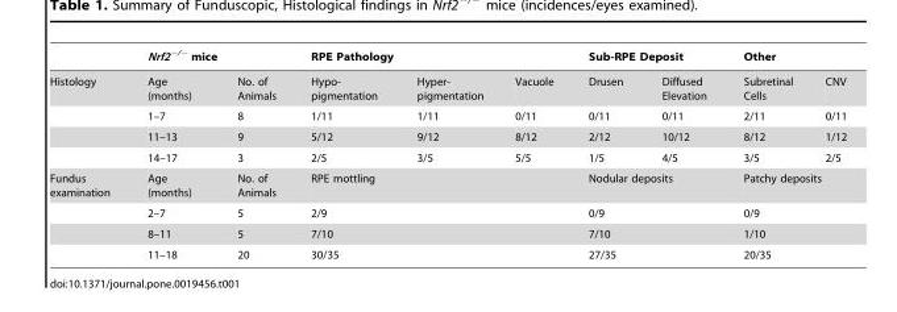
<table><thead><tr><td rowspan="2">Histology</td><td colspan="2">Nrf2<sup>−/−</sup> mice</td><td colspan="3">RPE Pathology</td><td colspan="2">Sub-RPE Deposit</td><td colspan="2">Other</td></tr><tr><td>Age (months)</td><td>No. of Animals</td><td>Hypo- pigmentation</td><td>Hyper- pigmentation</td><td>Vacuole</td><td>Drusen</td><td>Diffused Elevation</td><td>Subretinal Cells</td><td>CNV</td></tr></thead><tbody><tr><td></td><td>1–7</td><td>8</td><td>1/11</td><td>1/11</td><td>0/11</td><td>0/11</td><td>0/11</td><td>2/11</td><td>0/11</td></tr><tr><td></td><td>11–13</td><td>9</td><td>5/12</td><td>9/12</td><td>8/12</td><td>2/12</td><td>10/12</td><td>8/12</td><td>1/12</td></tr><tr><td></td><td>14–17</td><td>3</td><td>2/5</td><td>3/5</td><td>5/5</td><td>1/5</td><td>4/5</td><td>3/5</td><td>2/5</td></tr><tr><td rowspan="4">Fundus examination</td><td>Age (months)</td><td>No. of Animals</td><td colspan="3">RPE mottling</td><td colspan="2">Nodular deposits</td><td colspan="2">Patchy deposits</td></tr><tr><td>2–7</td><td>5</td><td colspan="3">2/9</td><td colspan="2">0/9</td><td colspan="2">0/9</td></tr><tr><td>8–11</td><td>5</td><td colspan="3">7/10</td><td colspan="2">7/10</td><td colspan="2">1/10</td></tr><tr><td>11–18</td><td>20</td><td colspan="3">30/35</td><td colspan="2">27/35</td><td colspan="2">20/35</td></tr></tbody></table>